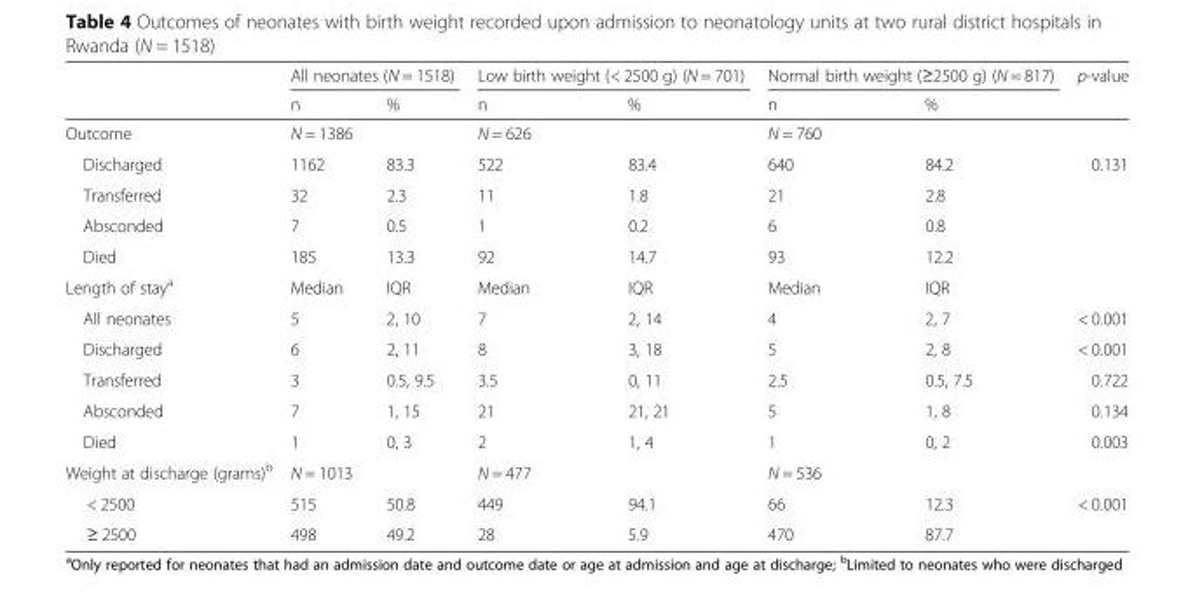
<table><thead><tr><td rowspan="2"></td><td colspan="2">All neonates (N = 1518)</td><td colspan="2">Low birth weight (&lt; 2500 g) (N = 701)</td><td colspan="2">Normal birth weight (≥2500 g) (N = 817)</td><td rowspan="2">p-value</td></tr><tr><td>n</td><td>%</td><td>n</td><td>%</td><td>n</td><td>%</td></tr></thead><tbody><tr><td>Outcome</td><td colspan="2">N = 1386</td><td colspan="2">N = 626</td><td colspan="2">N = 760</td><td></td></tr><tr><td>Discharged</td><td>1162</td><td>83.3</td><td>522</td><td>83.4</td><td>640</td><td>84.2</td><td rowspan="4">0.131</td></tr><tr><td>Transferred</td><td>32</td><td>2.3</td><td>11</td><td>1.8</td><td>21</td><td>2.8</td></tr><tr><td>Absconded</td><td>7</td><td>0.5</td><td>1</td><td>0.2</td><td>6</td><td>0.8</td></tr><tr><td>Died</td><td>185</td><td>13.3</td><td>92</td><td>14.7</td><td>93</td><td>12.2</td></tr><tr><td>Length of stay<sup>a</sup></td><td>Median</td><td>IQR</td><td>Median</td><td>IQR</td><td>Median</td><td>IQR</td><td></td></tr><tr><td>All neonates</td><td>5</td><td>2, 10</td><td>7</td><td>2, 14</td><td>4</td><td>2, 7</td><td>&lt; 0.001</td></tr><tr><td>Discharged</td><td>6</td><td>2, 11</td><td>8</td><td>3, 18</td><td>5</td><td>2, 8</td><td>&lt; 0.001</td></tr><tr><td>Transferred</td><td>3</td><td>0.5, 9.5</td><td>3.5</td><td>0, 11</td><td>2.5</td><td>0.5, 7.5</td><td>0.722</td></tr><tr><td>Absconded</td><td>7</td><td>1, 15</td><td>21</td><td>21, 21</td><td>5</td><td>1, 8</td><td>0.134</td></tr><tr><td>Died</td><td>1</td><td>0, 3</td><td>2</td><td>1, 4</td><td>1</td><td>0, 2</td><td>0.003</td></tr><tr><td>Weight at discharge (grams)<sup>b</sup></td><td colspan="2">N = 1013</td><td colspan="2">N = 477</td><td colspan="2">N = 536</td><td></td></tr><tr><td>&lt; 2500</td><td>515</td><td>50.8</td><td>449</td><td>94.1</td><td>66</td><td>12.3</td><td rowspan="2">&lt; 0.001</td></tr><tr><td>≥ 2500</td><td>498</td><td>49.2</td><td>28</td><td>5.9</td><td>470</td><td>87.7</td></tr></tbody></table>